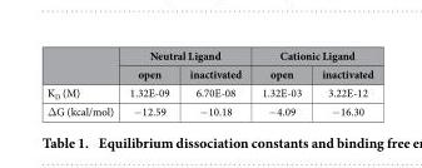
<table><thead><tr><td rowspan="2"></td><td colspan="2">Neutral Ligand</td><td colspan="2">Cationic Ligand</td></tr><tr><td>open</td><td>inactivated</td><td>open</td><td>inactivated</td></tr></thead><tbody><tr><td>K<sub>D</sub> (M)</td><td>1.32E-09</td><td>6.70E-08</td><td>1.32E-03</td><td>3.22E-12</td></tr><tr><td>Δ G (kcal/mol)</td><td>− 12.59</td><td>− 10.18</td><td>− 4.09</td><td>− 16.30</td></tr></tbody></table>